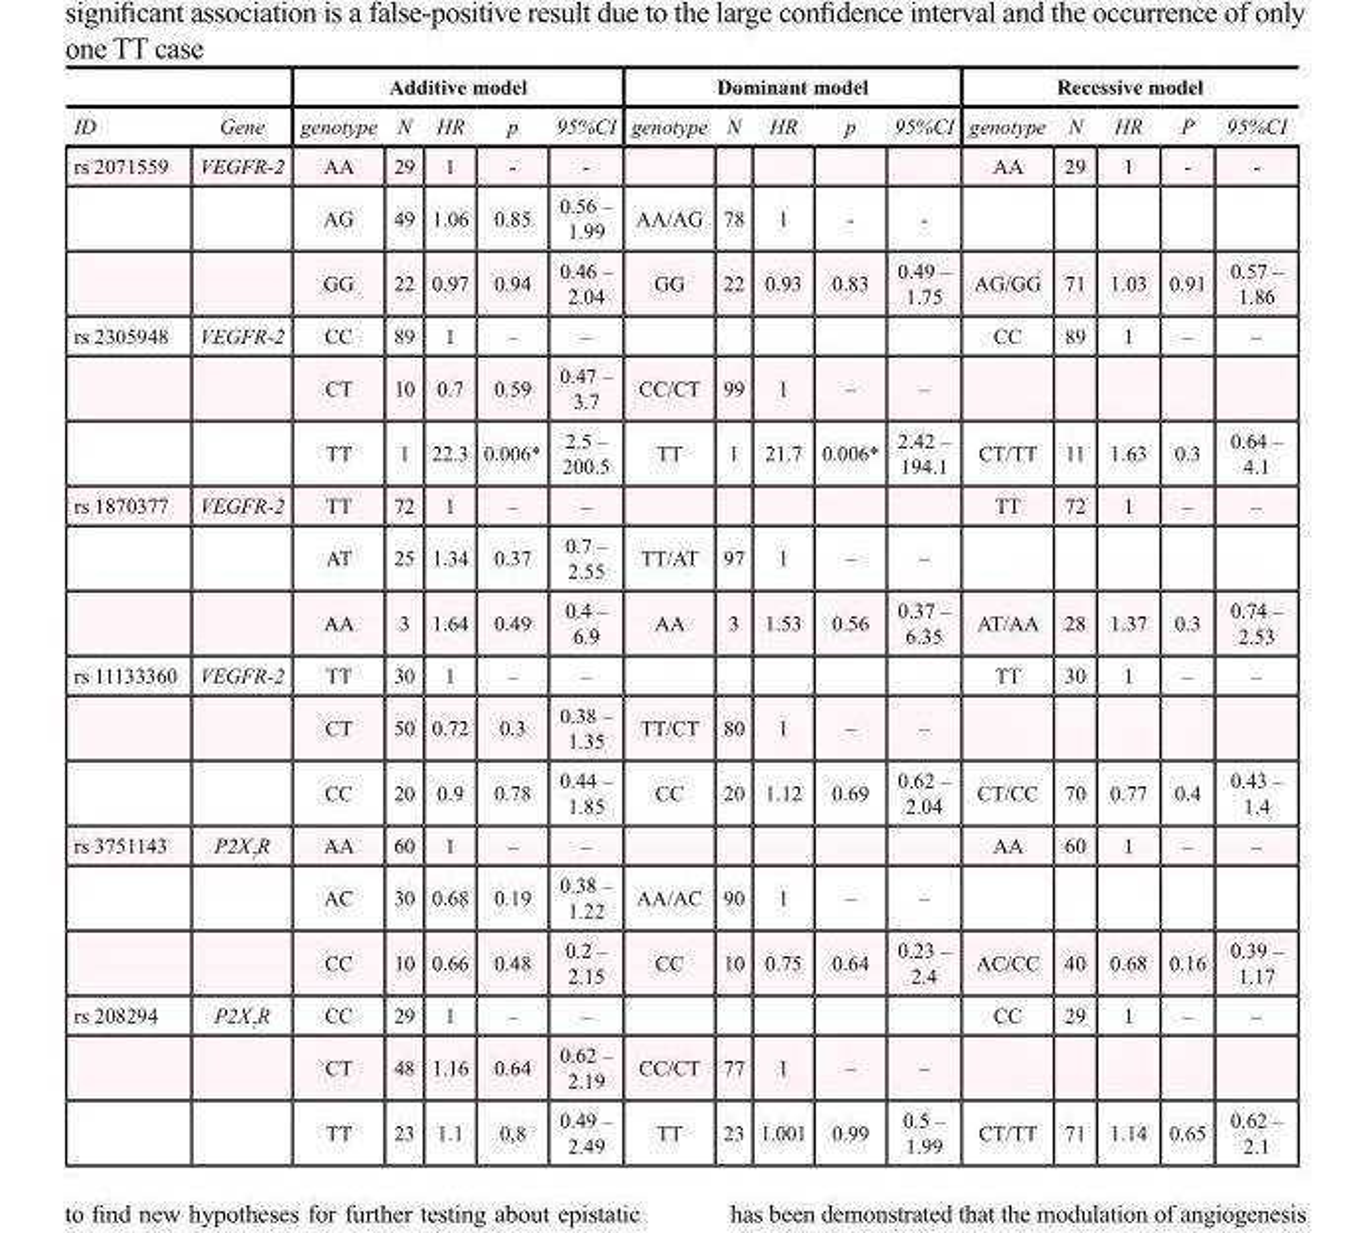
<table><thead><tr><td rowspan="2">ID</td><td rowspan="2">Gene</td><td colspan="5">Additive model</td><td colspan="5">Dominant model</td><td colspan="5">Recessive model</td></tr><tr><td>gen otype</td><td>N</td><td>HR</td><td>p</td><td>95%CI</td><td>gen otype</td><td>N</td><td>HR</td><td>p</td><td>95%CI</td><td>gen otype</td><td>N</td><td>HR</td><td>P</td><td>95%CI</td></tr></thead><tbody><tr><td rowspan="3">rs 2071559</td><td>VEGFR-2</td><td>AA</td><td>29</td><td>1</td><td>-</td><td>-</td><td></td><td></td><td></td><td></td><td></td><td>AA</td><td>29</td><td>1</td><td>-</td><td>-</td></tr><tr><td></td><td>AG</td><td>49</td><td>1.06</td><td>0.85</td><td>0.56 – 1.99</td><td>AA/AG</td><td>78</td><td>1</td><td>-</td><td>-</td><td></td><td></td><td></td><td></td><td></td></tr><tr><td></td><td>GG</td><td>22</td><td>0.97</td><td>0.94</td><td>0.46 – 2.04</td><td>GG</td><td>22</td><td>0.93</td><td>0.83</td><td>0.49 – 1.75</td><td>AG/GG</td><td>71</td><td>1.03</td><td>0.91</td><td>0.57 – 1.86</td></tr><tr><td rowspan="3">rs 2305948</td><td>VEGFR-2</td><td>CC</td><td>89</td><td>1</td><td>–</td><td>–</td><td></td><td></td><td></td><td></td><td></td><td>CC</td><td>89</td><td>1</td><td>–</td><td>–</td></tr><tr><td></td><td>CT</td><td>10</td><td>0.7</td><td>0.59</td><td>0.47 – 3.7</td><td>CC/CT</td><td>99</td><td>1</td><td>–</td><td>–</td><td></td><td></td><td></td><td></td><td></td></tr><tr><td></td><td>TT</td><td>1</td><td>22.3</td><td>0.006*</td><td>2.5 – 200.5</td><td>TT</td><td>1</td><td>21.7</td><td>0.006*</td><td>2.42 – 194.1</td><td>CT/TT</td><td>11</td><td>1.63</td><td>0.3</td><td>0.64 – 4.1</td></tr><tr><td rowspan="3">rs 1870377</td><td>VEGFR-2</td><td>TT</td><td>72</td><td>1</td><td>–</td><td>–</td><td></td><td></td><td></td><td></td><td></td><td>TT</td><td>72</td><td>1</td><td>–</td><td>–</td></tr><tr><td></td><td>AT</td><td>25</td><td>1.34</td><td>0.37</td><td>0.7 – 2.55</td><td>TT/AT</td><td>97</td><td>1</td><td>–</td><td>–</td><td></td><td></td><td></td><td></td><td></td></tr><tr><td></td><td>AA</td><td>3</td><td>1.64</td><td>0.49</td><td>0.4 – 6.9</td><td>AA</td><td>3</td><td>1.53</td><td>0.56</td><td>0.37 – 6.35</td><td>AT/AA</td><td>28</td><td>1.37</td><td>0.3</td><td>0.74 – 2.53</td></tr><tr><td rowspan="3">rs 11133360</td><td>VEGFR-2</td><td>TT</td><td>30</td><td>1</td><td>–</td><td>–</td><td></td><td></td><td></td><td></td><td></td><td>TT</td><td>30</td><td>1</td><td>–</td><td>–</td></tr><tr><td></td><td>CT</td><td>50</td><td>0.72</td><td>0.3</td><td>0.38 – 1.35</td><td>TT/CT</td><td>80</td><td>1</td><td>–</td><td>–</td><td></td><td></td><td></td><td></td><td></td></tr><tr><td></td><td>CC</td><td>20</td><td>0.9</td><td>0.78</td><td>0.44 – 1.85</td><td>CC</td><td>20</td><td>1.12</td><td>0.69</td><td>0.62 – 2.04</td><td>CT/CC</td><td>70</td><td>0.77</td><td>0.4</td><td>0.43 – 1.4</td></tr><tr><td rowspan="3">rs 3751143</td><td>P2X<sub>7</sub>R</td><td>AA</td><td>60</td><td>1</td><td>–</td><td>–</td><td></td><td></td><td></td><td></td><td></td><td>AA</td><td>60</td><td>1</td><td>–</td><td>–</td></tr><tr><td></td><td>AC</td><td>30</td><td>0.68</td><td>0.19</td><td>0.38 – 1.22</td><td>AA/AC</td><td>90</td><td>1</td><td>–</td><td>–</td><td></td><td></td><td></td><td></td><td></td></tr><tr><td></td><td>CC</td><td>10</td><td>0.66</td><td>0.48</td><td>0.2 – 2.15</td><td>CC</td><td>10</td><td>0.75</td><td>0.64</td><td>0.23 – 2.4</td><td>AC/CC</td><td>40</td><td>0.68</td><td>0.16</td><td>0.39 – 1.17</td></tr><tr><td rowspan="3">rs 208294</td><td>P2X<sub>7</sub>R</td><td>CC</td><td>29</td><td>1</td><td>–</td><td>–</td><td></td><td></td><td></td><td></td><td></td><td>CC</td><td>29</td><td>1</td><td>–</td><td>–</td></tr><tr><td></td><td>CT</td><td>48</td><td>1.16</td><td>0.64</td><td>0.62 – 2.19</td><td>CC/CT</td><td>77</td><td>1</td><td>–</td><td>–</td><td></td><td></td><td></td><td></td><td></td></tr><tr><td></td><td>TT</td><td>23</td><td>1.1</td><td>0,8</td><td>0.49 – 2.49</td><td>TT</td><td>23</td><td>1.001</td><td>0.99</td><td>0.5 – 1.99</td><td>CT/TT</td><td>71</td><td>1.14</td><td>0.65</td><td>0.62 – 2.1</td></tr></tbody></table>